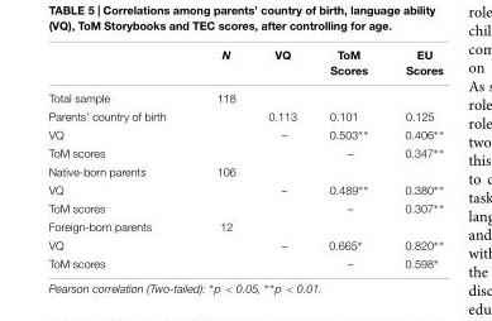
<table><thead><tr><td></td><td>N</td><td>VQ</td><td>ToM Scores</td><td>EU Scores</td></tr></thead><tbody><tr><td>Total sample</td><td>118</td><td></td><td></td><td></td></tr><tr><td>Parents’ country of birth</td><td></td><td>0.113</td><td>0.101</td><td>0.125</td></tr><tr><td>VQ</td><td></td><td>–</td><td>0.503∗∗</td><td>0.406∗∗</td></tr><tr><td>ToM scores</td><td></td><td></td><td>–</td><td>0.347∗∗</td></tr><tr><td>Native-born parents</td><td>106</td><td></td><td></td><td></td></tr><tr><td>VQ</td><td></td><td>–</td><td>0.489∗∗</td><td>0.380∗∗</td></tr><tr><td>ToM scores</td><td></td><td></td><td>–</td><td>0.307∗∗</td></tr><tr><td>Foreign-born parents</td><td>12</td><td></td><td></td><td></td></tr><tr><td>VQ</td><td></td><td>–</td><td>0.665∗</td><td>0.820∗∗</td></tr><tr><td>ToM scores</td><td></td><td></td><td>–</td><td>0.598∗</td></tr></tbody></table>